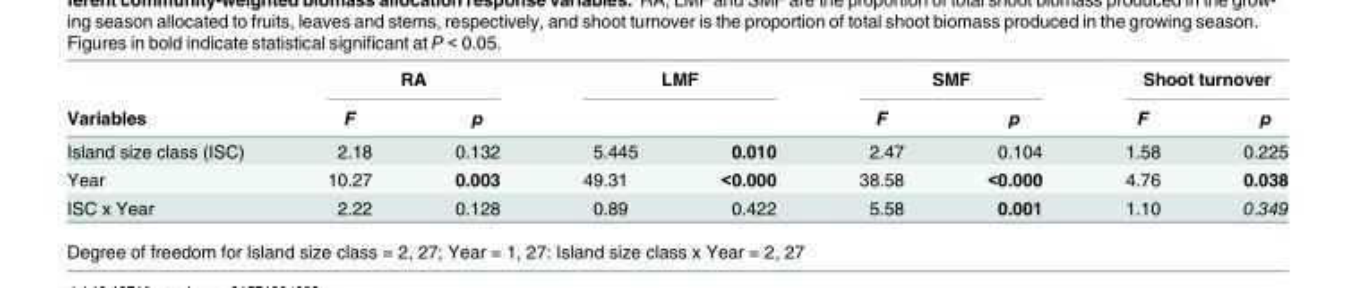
<table><thead><tr><td rowspan="2">Variables</td><td colspan="2">RA</td><td colspan="2">LMF</td><td colspan="2">SMF</td><td colspan="2">Shoot turnover</td></tr><tr><td>F</td><td>p</td><td></td><td></td><td>F</td><td>p</td><td>F</td><td>p</td></tr></thead><tbody><tr><td>Island size class (ISC)</td><td>2.18</td><td>0.132</td><td>5.445</td><td>0.010</td><td>2.47</td><td>0.104</td><td>1.58</td><td>0.225</td></tr><tr><td>Year</td><td>10.27</td><td>0.003</td><td>49.31</td><td>&lt;0.000</td><td>38.58</td><td>&lt;0.000</td><td>4.76</td><td>0.038</td></tr><tr><td>ISC x Year</td><td>2.22</td><td>0.128</td><td>0.89</td><td>0.422</td><td>5.58</td><td>0.001</td><td>1.10</td><td>0.349</td></tr></tbody></table>